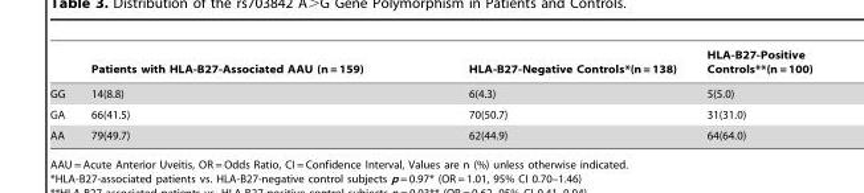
<table><thead><tr><td></td><td>Patients with HLA-B27-Associated AAU (n = 159)</td><td>HLA-B27-Negative Controls*(n = 138)</td><td>HLA-B27-Positive Controls**(n = 100)</td></tr></thead><tbody><tr><td>GG</td><td>14(8.8)</td><td>6(4.3)</td><td>5(5.0)</td></tr><tr><td>GA</td><td>66(41.5)</td><td>70(50.7)</td><td>31(31.0)</td></tr><tr><td>AA</td><td>79(49.7)</td><td>62(44.9)</td><td>64(64.0)</td></tr></tbody></table>